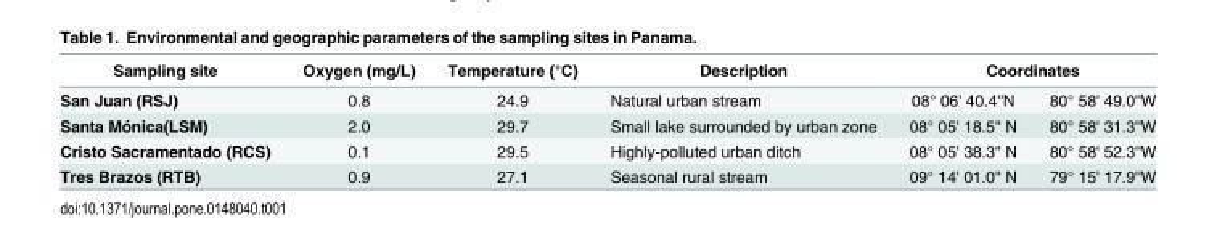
<table><thead><tr><td rowspan="2">Sampling site San Juan (RSJ)</td><td rowspan="2">Oxygen (mg/L) 0.8</td><td rowspan="2">Temperature (°C) 24.9</td><td rowspan="2">Description Natural urban stream</td><td colspan="2">Coordinates</td></tr><tr><td>08° 06&#x27; 40.4&#x27;&#x27;N</td><td>80° 58&#x27; 49.0&#x27;&#x27;W</td></tr></thead><tbody><tr><td>Santa Mónica(LSM)</td><td>2.0</td><td>29.7</td><td>Small lake surrounded by urban zone</td><td>08° 05&#x27; 18.5&#x27;&#x27; N</td><td>80° 58&#x27; 31.3&#x27;&#x27;W</td></tr><tr><td>Cristo Sacramentado (RCS)</td><td>0.1</td><td>29.5</td><td>Highly-polluted urban ditch</td><td>08° 05&#x27; 38.3&#x27;&#x27; N</td><td>80° 58&#x27; 52.3&#x27;&#x27;W</td></tr><tr><td>Tres Brazos (RTB)</td><td>0.9</td><td>27.1</td><td>Seasonal rural stream</td><td>09° 14&#x27; 01.0&#x27;&#x27; N</td><td>79° 15&#x27; 17.9&#x27;&#x27;W</td></tr></tbody></table>